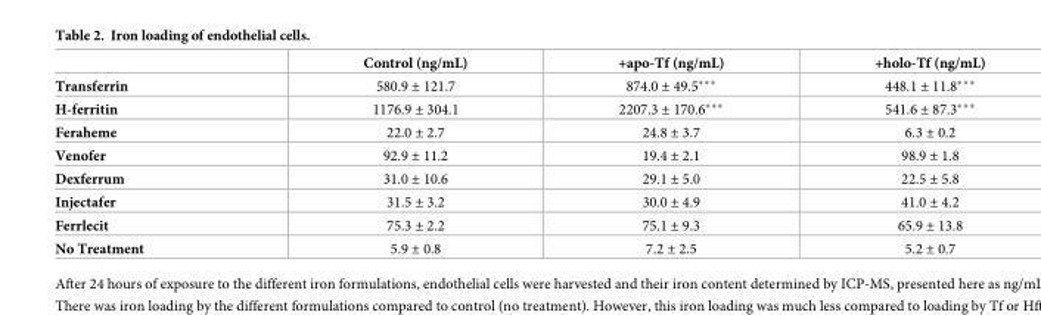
<table><thead><tr><td></td><td>Control (ng/mL)</td><td>+apo-Tf (ng/mL)</td><td>+holo-Tf (ng/mL)</td></tr></thead><tbody><tr><td>Transferrin</td><td>580.9 ± 121.7</td><td>874.0 ± 49.5***</td><td>448.1 ± 11.8***</td></tr><tr><td>H-ferritin</td><td>1176.9 ± 304.1</td><td>2207.3 ± 170.6***</td><td>541.6 ± 87.3***</td></tr><tr><td>Feraheme</td><td>22.0 ± 2.7</td><td>24.8 ± 3.7</td><td>6.3 ± 0.2</td></tr><tr><td>Venofer</td><td>92.9 ± 11.2</td><td>19.4 ± 2.1</td><td>98.9 ± 1.8</td></tr><tr><td>Dexferrum</td><td>31.0 ± 10.6</td><td>29.1 ± 5.0</td><td>22.5 ± 5.8</td></tr><tr><td>Injectafer</td><td>31.5 ± 3.2</td><td>30.0 ± 4.9</td><td>41.0 ± 4.2</td></tr><tr><td>Ferrlecit</td><td>75.3 ± 2.2</td><td>75.1 ± 9.3</td><td>65.9 ± 13.8</td></tr><tr><td>No Treatment</td><td>5.9 ± 0.8</td><td>7.2 ± 2.5</td><td>5.2 ± 0.7</td></tr></tbody></table>